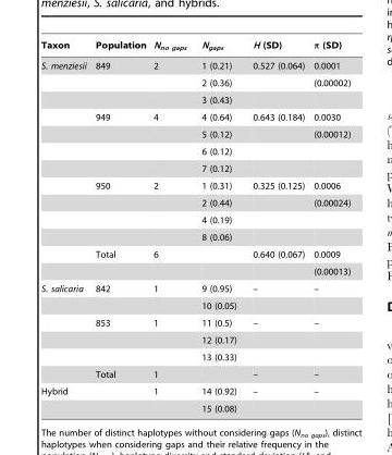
<table><thead><tr><td>Taxon</td><td>Population</td><td>N<sub>no gaps</sub></td><td>N<sub>gaps</sub></td><td>H (SD)</td><td>π (SD)</td></tr></thead><tbody><tr><td rowspan="13">S. menziesii</td><td>849</td><td>2</td><td>1 (0.21)</td><td>0.527 (0.064)</td><td>0.0001</td></tr><tr><td></td><td></td><td>2 (0.36)</td><td></td><td>(0.00002)</td></tr><tr><td></td><td></td><td>3 (0.43)</td><td></td><td></td></tr><tr><td>949</td><td>4</td><td>4 (0.64)</td><td>0.643 (0.184)</td><td>0.0030</td></tr><tr><td></td><td></td><td>5 (0.12)</td><td></td><td>(0.00012)</td></tr><tr><td></td><td></td><td>6 (0.12)</td><td></td><td></td></tr><tr><td></td><td></td><td>7 (0.12)</td><td></td><td></td></tr><tr><td>950</td><td>2</td><td>1 (0.31)</td><td>0.325 (0.125)</td><td>0.0006</td></tr><tr><td></td><td></td><td>2 (0.44)</td><td></td><td>(0.00024)</td></tr><tr><td></td><td></td><td>4 (0.19)</td><td></td><td></td></tr><tr><td></td><td></td><td>8 (0.06)</td><td></td><td></td></tr><tr><td>Total</td><td>6</td><td></td><td>0.640 (0.067)</td><td>0.0009</td></tr><tr><td></td><td></td><td></td><td></td><td>(0.00013)</td></tr><tr><td rowspan="6">S. salicaria</td><td>842</td><td>1</td><td>9 (0.95)</td><td>–</td><td>–</td></tr><tr><td></td><td></td><td>10 (0.05)</td><td></td><td></td></tr><tr><td>853</td><td>1</td><td>11 (0.5)</td><td>–</td><td>–</td></tr><tr><td></td><td></td><td>12 (0.17)</td><td></td><td></td></tr><tr><td></td><td></td><td>13 (0.33)</td><td></td><td></td></tr><tr><td>Total</td><td>1</td><td></td><td>–</td><td>–</td></tr><tr><td rowspan="2">Hybrid</td><td></td><td>1</td><td>14 (0.92)</td><td>–</td><td>–</td></tr><tr><td></td><td></td><td>15 (0.08)</td><td></td><td></td></tr></tbody></table>